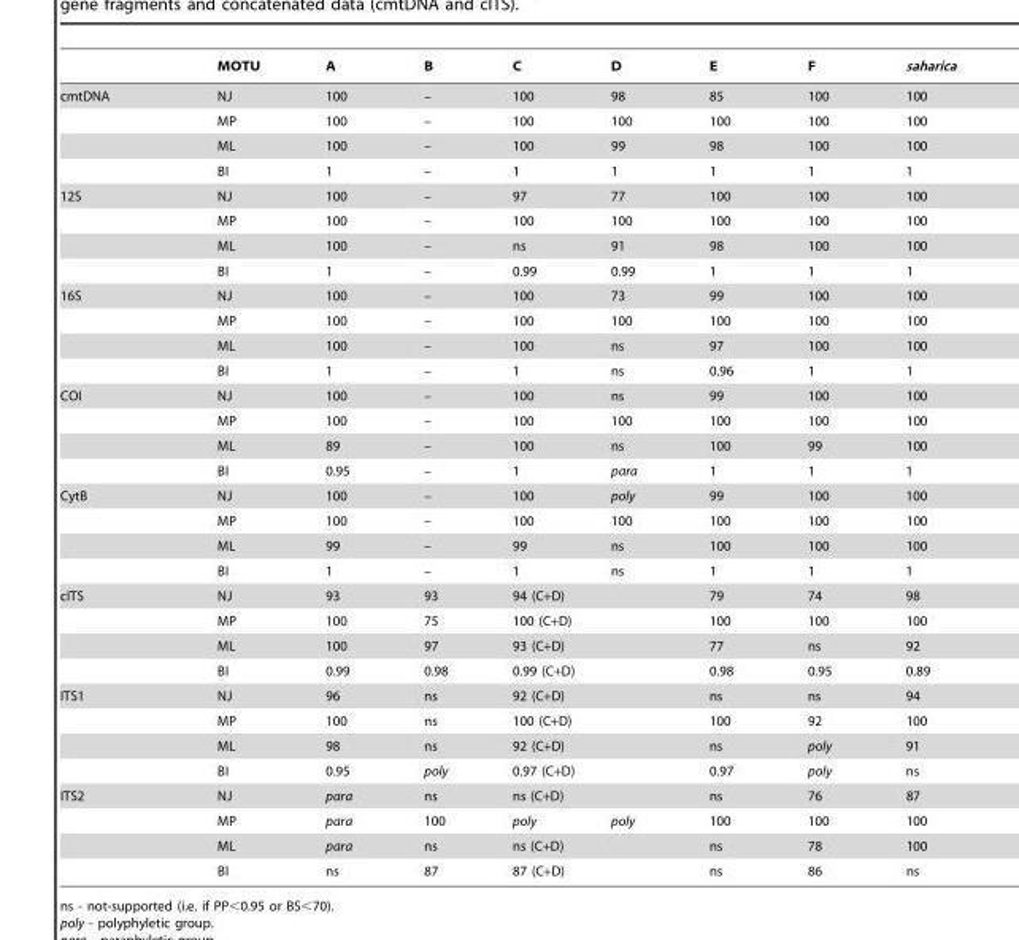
<table><thead><tr><td></td><td>MOTU</td><td>A</td><td>B</td><td>C</td><td>D</td><td>E</td><td>F</td><td>saharica</td></tr></thead><tbody><tr><td rowspan="4">cmtDNA</td><td>NJ</td><td>100</td><td>–</td><td>100</td><td>98</td><td>85</td><td>100</td><td>100</td></tr><tr><td>MP</td><td>100</td><td>–</td><td>100</td><td>100</td><td>100</td><td>100</td><td>100</td></tr><tr><td>ML</td><td>100</td><td>–</td><td>100</td><td>99</td><td>98</td><td>100</td><td>100</td></tr><tr><td>BI</td><td>1</td><td>–</td><td>1</td><td>1</td><td>1</td><td>1</td><td>1</td></tr><tr><td rowspan="4">12S</td><td>NJ</td><td>100</td><td>–</td><td>97</td><td>77</td><td>100</td><td>100</td><td>100</td></tr><tr><td>MP</td><td>100</td><td>–</td><td>100</td><td>100</td><td>100</td><td>100</td><td>100</td></tr><tr><td>ML</td><td>100</td><td>–</td><td>ns</td><td>91</td><td>98</td><td>100</td><td>100</td></tr><tr><td>BI</td><td>1</td><td>–</td><td>0.99</td><td>0.99</td><td>1</td><td>1</td><td>1</td></tr><tr><td rowspan="4">16S</td><td>NJ</td><td>100</td><td>–</td><td>100</td><td>73</td><td>99</td><td>100</td><td>100</td></tr><tr><td>MP</td><td>100</td><td>–</td><td>100</td><td>100</td><td>100</td><td>100</td><td>100</td></tr><tr><td>ML</td><td>100</td><td>–</td><td>100</td><td>ns</td><td>97</td><td>100</td><td>100</td></tr><tr><td>BI</td><td>1</td><td>–</td><td>1</td><td>ns</td><td>0.96</td><td>1</td><td>1</td></tr><tr><td rowspan="4">COI</td><td>NJ</td><td>100</td><td>–</td><td>100</td><td>ns</td><td>99</td><td>100</td><td>100</td></tr><tr><td>MP</td><td>100</td><td>–</td><td>100</td><td>100</td><td>100</td><td>100</td><td>100</td></tr><tr><td>ML</td><td>89</td><td>–</td><td>100</td><td>ns</td><td>100</td><td>99</td><td>100</td></tr><tr><td>BI</td><td>0.95</td><td>–</td><td>1</td><td>para</td><td>1</td><td>1</td><td>1</td></tr><tr><td rowspan="4">CytB</td><td>NJ</td><td>100</td><td>–</td><td>100</td><td>poly</td><td>99</td><td>100</td><td>100</td></tr><tr><td>MP</td><td>100</td><td>–</td><td>100</td><td>100</td><td>100</td><td>100</td><td>100</td></tr><tr><td>ML</td><td>99</td><td>–</td><td>99</td><td>ns</td><td>100</td><td>100</td><td>100</td></tr><tr><td>BI</td><td>1</td><td>–</td><td>1</td><td>ns</td><td>1</td><td>1</td><td>1</td></tr><tr><td rowspan="4">cITS</td><td>NJ</td><td>93</td><td>93</td><td colspan="2">94 (C+D)</td><td>79</td><td>74</td><td>98</td></tr><tr><td>MP</td><td>100</td><td>75</td><td colspan="2">100 (C+D)</td><td>100</td><td>100</td><td>100</td></tr><tr><td>ML</td><td>100</td><td>97</td><td colspan="2">93 (C+D)</td><td>77</td><td>ns</td><td>92</td></tr><tr><td>BI</td><td>0.99</td><td>0.98</td><td colspan="2">0.99 (C+D)</td><td>0.98</td><td>0.95</td><td>0.89</td></tr><tr><td rowspan="4">ITS1</td><td>NJ</td><td>96</td><td>ns</td><td colspan="2">92 (C+D)</td><td>ns</td><td>ns</td><td>94</td></tr><tr><td>MP</td><td>100</td><td>ns</td><td colspan="2">100 (C+D)</td><td>100</td><td>92</td><td>100</td></tr><tr><td>ML</td><td>98</td><td>ns</td><td colspan="2">92 (C+D)</td><td>ns</td><td>poly</td><td>91</td></tr><tr><td>BI</td><td>0.95</td><td>poly</td><td colspan="2">0.97 (C+D)</td><td>0.97</td><td>poly</td><td>ns</td></tr><tr><td rowspan="4">ITS2</td><td>NJ</td><td>para</td><td>ns</td><td colspan="2">ns (C+D)</td><td>ns</td><td>76</td><td>87</td></tr><tr><td>MP</td><td>para</td><td>100</td><td>poly</td><td>poly</td><td>100</td><td>100</td><td>100</td></tr><tr><td>ML</td><td>para</td><td>ns</td><td colspan="2">ns (C+D)</td><td>ns</td><td>78</td><td>100</td></tr><tr><td>BI</td><td>ns</td><td>87</td><td colspan="2">87 (C+D)</td><td>ns</td><td>86</td><td>ns</td></tr></tbody></table>